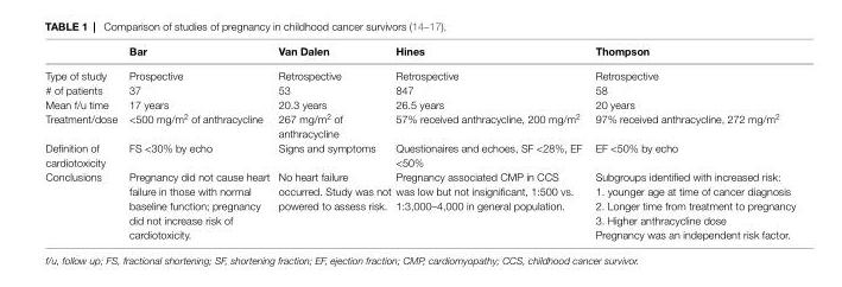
<table><thead><tr><td></td><td>bar</td><td>van dalen</td><td>hines</td><td>thompson</td></tr></thead><tbody><tr><td>Type of study</td><td>Prospective</td><td>Retrospective</td><td>Retrospective</td><td>Retrospective</td></tr><tr><td># of patients</td><td>37</td><td>53</td><td>847</td><td>58</td></tr><tr><td>Mean f/u time</td><td>17 years</td><td>20.3 years</td><td>26.5 years</td><td>20 years</td></tr><tr><td>Treatment/dose</td><td>&lt;500 mg/m<sup>2</sup> of anthracycline</td><td>267 mg/m<sup>2</sup> of anthracycline</td><td>57% received anthracycline, 200 mg/m<sup>2</sup></td><td>97% received anthracycline, 272 mg/m<sup>2</sup></td></tr><tr><td>Definition of cardiotoxicity</td><td>FS &lt;30% by echo</td><td>Signs and symptoms</td><td>Questionaires and echoes, SF &lt;28%, EF &lt;50%</td><td>EF &lt;50% by echo</td></tr><tr><td>Conclusions</td><td>Pregnancy did not cause heart failure in those with normal baseline function; pregnancy did not increase risk of cardiotoxicity.</td><td>No heart failure occurred. Study was not powered to assess risk.</td><td>Pregnancy associated CMP in CCS was low but not insignificant, 1:500 vs. 1:3,000–4,000 in general population.</td><td>Subgroups identified with increased risk: 1. younger age at time of cancer diagnosis 2. Longer time from treatment to pregnancy 3. Higher anthracycline dose Pregnancy was an independent risk factor.</td></tr></tbody></table>